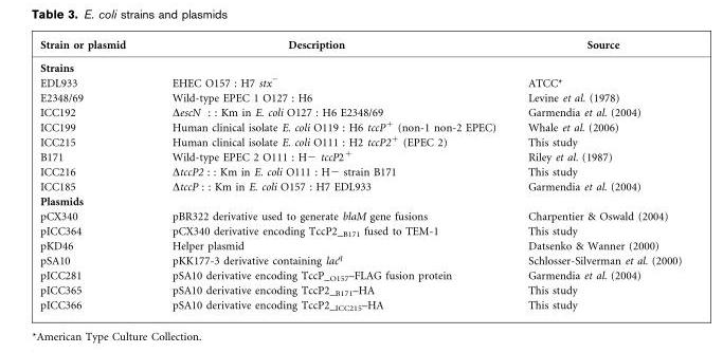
<table><thead><tr><td>Strain or plasmid</td><td>Description</td><td>Source</td></tr></thead><tbody><tr><td colspan="3">Strains</td></tr><tr><td>EDL933</td><td>EHEC O157 : H7 stx<sup>−</sup></td><td>ATCC*</td></tr><tr><td>E2348/69</td><td>Wild-type EPEC 1 O127 : H6</td><td>Levine et al. (1978)</td></tr><tr><td>ICC192</td><td>ΔescN : : Km in E. coli O127 : H6 E2348/69</td><td>Garmendia et al. (2004)</td></tr><tr><td>ICC199</td><td>Human clinical isolate E. coli O119 : H6 tccP<sup>+</sup> (non-1 non-2 EPEC)</td><td>Whale et al. (2006)</td></tr><tr><td>ICC215</td><td>Human clinical isolate E. coli O111 : H2 tccP2<sup>+</sup> (EPEC 2)</td><td>This study</td></tr><tr><td>B171</td><td>Wild-type EPEC 2 O111 : H− tccP2<sup>+</sup></td><td>Riley et al. (1987)</td></tr><tr><td>ICC216</td><td>ΔtccP2 : : Km in E. coli O111 : H− strain B171</td><td>This study</td></tr><tr><td>ICC185</td><td>ΔtccP : : Km in E. coli O157 : H7 EDL933</td><td>Garmendia et al. (2004)</td></tr><tr><td colspan="3">Plasmids</td></tr><tr><td>pCX340</td><td>pBR322 derivative used to generate blaM gene fusions</td><td>Charpentier &amp; Oswald (2004)</td></tr><tr><td>pICC364</td><td>pCX340 derivative encoding TccP2_B171 fused to TEM-1</td><td>This study</td></tr><tr><td>pKD46</td><td>Helper plasmid</td><td>Datsenko &amp; Wanner (2000)</td></tr><tr><td>pSA10</td><td>pKK177-3 derivative containing lac<sup>q</sup></td><td>Schlosser-Silverman et al. (2000)</td></tr><tr><td>pICC281</td><td>pSA10 derivative encoding TccP_O157–FLAG fusion protein</td><td>Garmendia et al. (2004)</td></tr><tr><td>pICC365</td><td>pSA10 derivative encoding TccP2_B171–HA</td><td>This study</td></tr><tr><td>pICC366</td><td>pSA10 derivative encoding TccP2_ICC215–HA</td><td>This study</td></tr></tbody></table>